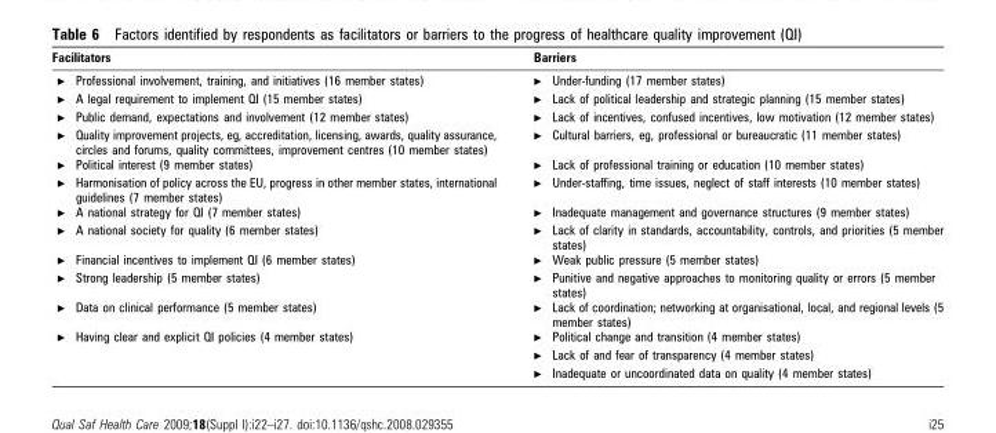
<table><thead><tr><td>Facilitators</td><td>Barriers</td></tr></thead><tbody><tr><td>c Professional involvement, training, and initiatives (16 member states)</td><td>c Under-funding (17 member states)</td></tr><tr><td>c A legal requirement to implement QI (15 member states)</td><td>c Lack of political leadership and strategic planning (15 member states)</td></tr><tr><td>c Public demand, expectations and involvement (12 member states)</td><td>c Lack of incentives, confused incentives, low motivation (12 member states)</td></tr><tr><td>c Quality improvement projects, eg, accreditation, licensing, awards, quality assurance, circles and forums, quality committees, improvement centres (10 member states)</td><td>c Cultural barriers, eg, professional or bureaucratic (11 member states)</td></tr><tr><td>c Political interest (9 member states)</td><td>c Lack of professional training or education (10 member states)</td></tr><tr><td>c Harmonisation of policy across the EU, progress in other member states, international guidelines (7 member states)</td><td>c Under-staffing, time issues, neglect of staff interests (10 member states)</td></tr><tr><td>c A national strategy for QI (7 member states)</td><td>c Inadequate management and governance structures (9 member states)</td></tr><tr><td>c A national society for quality (6 member states)</td><td>c Lack of clarity in standards, accountability, controls, and priorities (5 member states)</td></tr><tr><td>c Financial incentives to implement QI (6 member states)</td><td>c Weak public pressure (5 member states)</td></tr><tr><td>c Strong leadership (5 member states)</td><td>c Punitive and negative approaches to monitoring quality or errors (5 member states)</td></tr><tr><td>c Data on clinical performance (5 member states)</td><td>c Lack of coordination; networking at organisational, local, and regional levels (5 member states)</td></tr><tr><td rowspan="3">c Having clear and explicit QI policies (4 member states)</td><td>c Political change and transition (4 member states)</td></tr><tr><td>c Lack of and fear of transparency (4 member states)</td></tr><tr><td>c Inadequate or uncoordinated data on quality (4 member states)</td></tr></tbody></table>